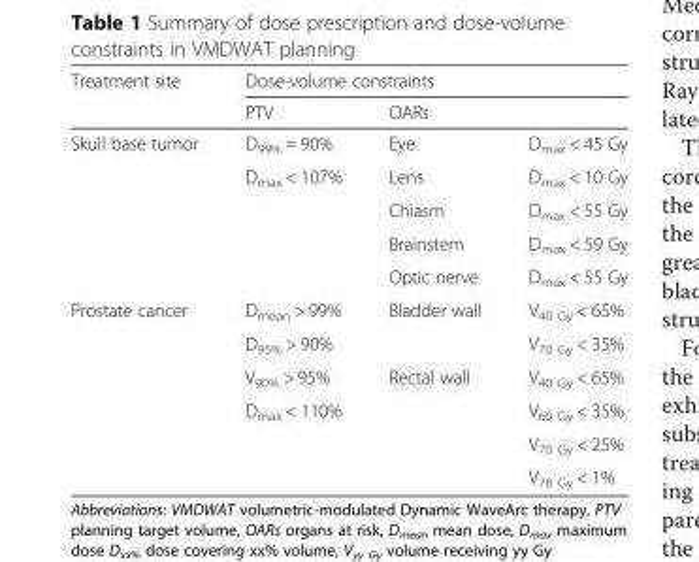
<table><thead><tr><td rowspan="3">Treatment site Skull base tumor</td><td colspan="3">Dose-volume constraints</td></tr><tr><td rowspan="2">PTV D<sub>99%</sub> = 90%</td><td colspan="2">OARs</td></tr><tr><td>Eye</td><td>D<sub>max</sub> &lt; 45 Gy</td></tr></thead><tbody><tr><td></td><td>D<sub>max</sub> &lt; 107%</td><td>Lens</td><td>D<sub>max</sub> &lt; 10 Gy</td></tr><tr><td></td><td></td><td>Chiasm</td><td>D<sub>max</sub> &lt; 55 Gy</td></tr><tr><td></td><td></td><td>Brainstem</td><td>D<sub>max</sub> &lt; 59 Gy</td></tr><tr><td></td><td></td><td>Optic nerve</td><td>D<sub>max</sub> &lt; 55 Gy</td></tr><tr><td rowspan="6">Prostate cancer</td><td>D<sub>mean</sub> &gt; 99%</td><td>Bladder wall</td><td>V<sub>40 Gy</sub> &lt; 65%</td></tr><tr><td>D<sub>95%</sub> &gt; 90%</td><td></td><td>V<sub>70 Gy</sub> &lt; 35%</td></tr><tr><td>V<sub>90%</sub> &gt; 95%</td><td>Rectal wall</td><td>V<sub>40 Gy</sub> &lt; 65%</td></tr><tr><td>D<sub>max</sub> &lt; 110%</td><td></td><td>V<sub>60 Gy</sub> &lt; 35%</td></tr><tr><td></td><td></td><td>V<sub>70 Gy</sub> &lt; 25%</td></tr><tr><td></td><td></td><td>V<sub>78 Gy</sub> &lt; 1%</td></tr></tbody></table>